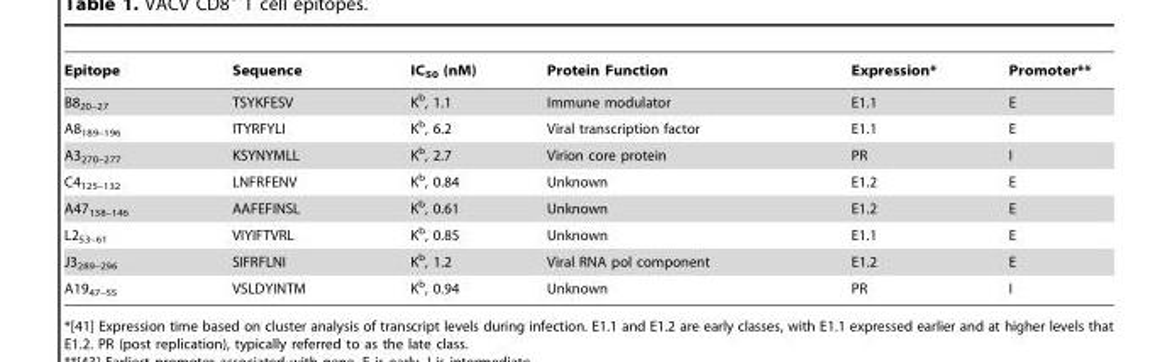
<table><thead><tr><td>Epitope</td><td>Sequence</td><td>IC<sub>50</sub> (nM)</td><td>Protein Function</td><td>Expression*</td><td>Promoter**</td></tr></thead><tbody><tr><td>B8<sub>20–27</sub></td><td>TSYKFESV</td><td>K<sup>b</sup>, 1.1</td><td>Immune modulator</td><td>E1.1</td><td>E</td></tr><tr><td>A8<sub>189–196</sub></td><td>ITYRFYLI</td><td>K<sup>b</sup>, 6.2</td><td>Viral transcription factor</td><td>E1.1</td><td>E</td></tr><tr><td>A3<sub>270–277</sub></td><td>KSYNYMLL</td><td>K<sup>b</sup>, 2.7</td><td>Virion core protein</td><td>PR</td><td>I</td></tr><tr><td>C4<sub>125–132</sub></td><td>LNFRFENV</td><td>K<sup>b</sup>, 0.84</td><td>Unknown</td><td>E1.2</td><td>E</td></tr><tr><td>A47<sub>138–146</sub></td><td>AAFEFINSL</td><td>K<sup>b</sup>, 0.61</td><td>Unknown</td><td>E1.2</td><td>E</td></tr><tr><td>L2<sub>53–61</sub></td><td>VIYIFTVRL</td><td>K<sup>b</sup>, 0.85</td><td>Unknown</td><td>E1.1</td><td>E</td></tr><tr><td>J3<sub>289–296</sub></td><td>SIFRFLNI</td><td>K<sup>b</sup>, 1.2</td><td>Viral RNA pol component</td><td>E1.2</td><td>E</td></tr><tr><td>A19<sub>47–55</sub></td><td>VSLDYINTM</td><td>K<sup>b</sup>, 0.94</td><td>Unknown</td><td>PR</td><td>I</td></tr></tbody></table>